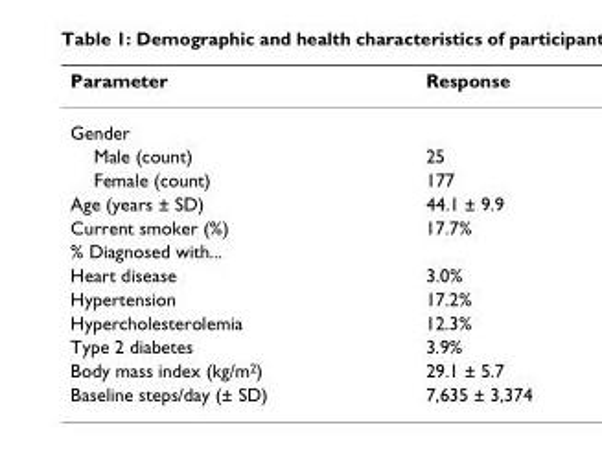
<table><thead><tr><td>Parameter</td><td>Response</td></tr></thead><tbody><tr><td colspan="2">Gender</td></tr><tr><td>Male (count)</td><td>25</td></tr><tr><td>Female (count)</td><td>177</td></tr><tr><td>Age (years ± SD)</td><td>44.1 ± 9.9</td></tr><tr><td>Current smoker (%)</td><td>17.7%</td></tr><tr><td colspan="2">% Diagnosed with...</td></tr><tr><td>Heart disease</td><td>3.0%</td></tr><tr><td>Hypertension</td><td>17.2%</td></tr><tr><td>Hypercholesterolemia</td><td>12.3%</td></tr><tr><td>Type 2 diabetes</td><td>3.9%</td></tr><tr><td>Body mass index (kg/m<sup>2</sup>)</td><td>29.1 ± 5.7</td></tr><tr><td>Baseline steps/day (± SD)</td><td>7,635 ± 3,374</td></tr></tbody></table>